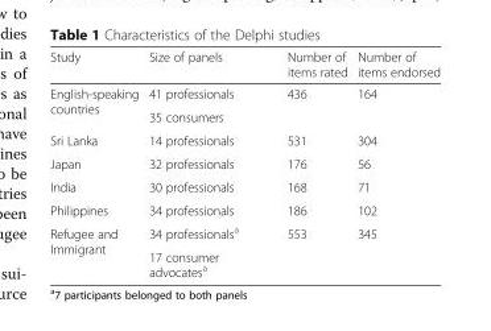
<table><thead><tr><td>Study</td><td>Size of panels</td><td>Number of items rated</td><td>Number of items endorsed</td></tr></thead><tbody><tr><td rowspan="2">English-speaking countries</td><td>41 professionals</td><td rowspan="2">436</td><td rowspan="2">164</td></tr><tr><td>35 consumers</td></tr><tr><td>Sri Lanka</td><td>14 professionals</td><td>531</td><td>304</td></tr><tr><td>Japan</td><td>32 professionals</td><td>176</td><td>56</td></tr><tr><td>India</td><td>30 professionals</td><td>168</td><td>71</td></tr><tr><td>Philippines</td><td>34 professionals</td><td>186</td><td>102</td></tr><tr><td rowspan="2">Refugee and Immigrant</td><td>34 professionals<sup>a</sup></td><td rowspan="2">553</td><td rowspan="2">345</td></tr><tr><td>17 consumer advocates<sup>a</sup></td></tr></tbody></table>